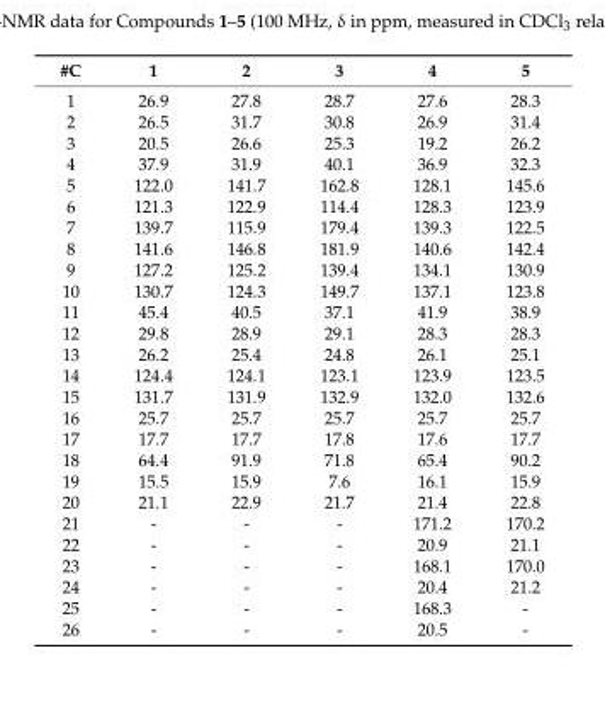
<table><thead><tr><td>#C</td><td>1</td><td>2</td><td>3</td><td>4</td><td>5</td></tr></thead><tbody><tr><td>1</td><td>26.9</td><td>27.8</td><td>28.7</td><td>27.6</td><td>28.3</td></tr><tr><td>2</td><td>26.5</td><td>31.7</td><td>30.8</td><td>26.9</td><td>31.4</td></tr><tr><td>3</td><td>20.5</td><td>26.6</td><td>25.3</td><td>19.2</td><td>26.2</td></tr><tr><td>4</td><td>37.9</td><td>31.9</td><td>40.1</td><td>36.9</td><td>32.3</td></tr><tr><td>5</td><td>122.0</td><td>141.7</td><td>162.8</td><td>128.1</td><td>145.6</td></tr><tr><td>6</td><td>121.3</td><td>122.9</td><td>114.4</td><td>128.3</td><td>123.9</td></tr><tr><td>7</td><td>139.7</td><td>115.9</td><td>179.4</td><td>139.3</td><td>122.5</td></tr><tr><td>8</td><td>141.6</td><td>146.8</td><td>181.9</td><td>140.6</td><td>142.4</td></tr><tr><td>9</td><td>127.2</td><td>125.2</td><td>139.4</td><td>134.1</td><td>130.9</td></tr><tr><td>10</td><td>130.7</td><td>124.3</td><td>149.7</td><td>137.1</td><td>123.8</td></tr><tr><td>11</td><td>45.4</td><td>40.5</td><td>37.1</td><td>41.9</td><td>38.9</td></tr><tr><td>12</td><td>29.8</td><td>28.9</td><td>29.1</td><td>28.3</td><td>28.3</td></tr><tr><td>13</td><td>26.2</td><td>25.4</td><td>24.8</td><td>26.1</td><td>25.1</td></tr><tr><td>14</td><td>124.4</td><td>124.1</td><td>123.1</td><td>123.9</td><td>123.5</td></tr><tr><td>15</td><td>131.7</td><td>131.9</td><td>132.9</td><td>132.0</td><td>132.6</td></tr><tr><td>16</td><td>25.7</td><td>25.7</td><td>25.7</td><td>25.7</td><td>25.7</td></tr><tr><td>17</td><td>17.7</td><td>17.7</td><td>17.8</td><td>17.6</td><td>17.7</td></tr><tr><td>18</td><td>64.4</td><td>91.9</td><td>71.8</td><td>65.4</td><td>90.2</td></tr><tr><td>19</td><td>15.5</td><td>15.9</td><td>7.6</td><td>16.1</td><td>15.9</td></tr><tr><td>20</td><td>21.1</td><td>22.9</td><td>21.7</td><td>21.4</td><td>22.8</td></tr><tr><td>21</td><td>-</td><td>-</td><td>-</td><td>171.2</td><td>170.2</td></tr><tr><td>22</td><td>-</td><td>-</td><td>-</td><td>20.9</td><td>21.1</td></tr><tr><td>23</td><td>-</td><td>-</td><td>-</td><td>168.1</td><td>170.0</td></tr><tr><td>24</td><td>-</td><td>-</td><td>-</td><td>20.4</td><td>21.2</td></tr><tr><td>25</td><td>-</td><td>-</td><td>-</td><td>168.3</td><td>-</td></tr><tr><td>26</td><td>-</td><td>-</td><td>-</td><td>20.5</td><td>-</td></tr></tbody></table>